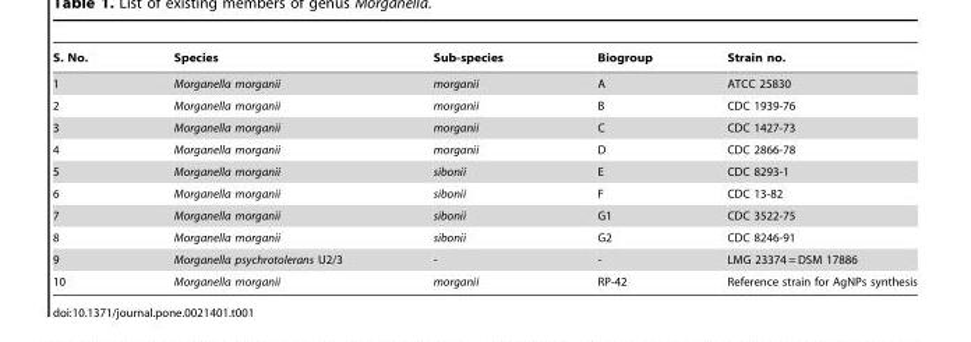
<table><thead><tr><td>S. No.</td><td>Species</td><td>Sub-species</td><td>Biogroup</td><td>Strain no.</td></tr></thead><tbody><tr><td>1</td><td>Morganella morganii</td><td>morganii</td><td>A</td><td>ATCC 25830</td></tr><tr><td>2</td><td>Morganella morganii</td><td>morganii</td><td>B</td><td>CDC 1939-76</td></tr><tr><td>3</td><td>Morganella morganii</td><td>morganii</td><td>C</td><td>CDC 1427-73</td></tr><tr><td>4</td><td>Morganella morganii</td><td>morganii</td><td>D</td><td>CDC 2866-78</td></tr><tr><td>5</td><td>Morganella morganii</td><td>sibonii</td><td>E</td><td>CDC 8293-1</td></tr><tr><td>6</td><td>Morganella morganii</td><td>sibonii</td><td>F</td><td>CDC 13-82</td></tr><tr><td>7</td><td>Morganella morganii</td><td>sibonii</td><td>G1</td><td>CDC 3522-75</td></tr><tr><td>8</td><td>Morganella morganii</td><td>sibonii</td><td>G2</td><td>CDC 8246-91</td></tr><tr><td>9</td><td>Morganella psychrotolerans U2/3</td><td>-</td><td>-</td><td>LMG 23374 = DSM 17886</td></tr><tr><td>10</td><td>Morganella morganii</td><td>morganii</td><td>RP-42</td><td>Reference strain for AgNPs synthesis</td></tr></tbody></table>